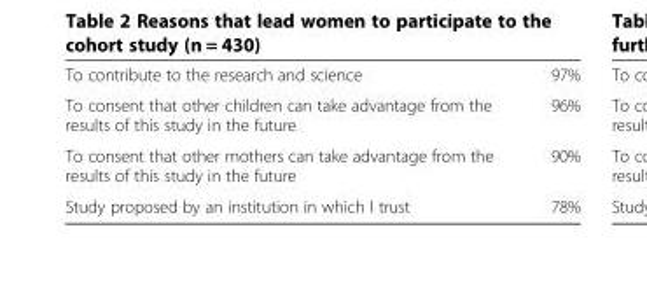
<table><tbody><tr><td>To contribute to the research and science</td><td>97%</td></tr><tr><td>To consent that other children can take advantage from the results of this study in the future</td><td>96%</td></tr><tr><td>To consent that other mothers can take advantage from the results of this study in the future</td><td>90%</td></tr><tr><td>Study proposed by an institution in which I trust</td><td>78%</td></tr></tbody></table>